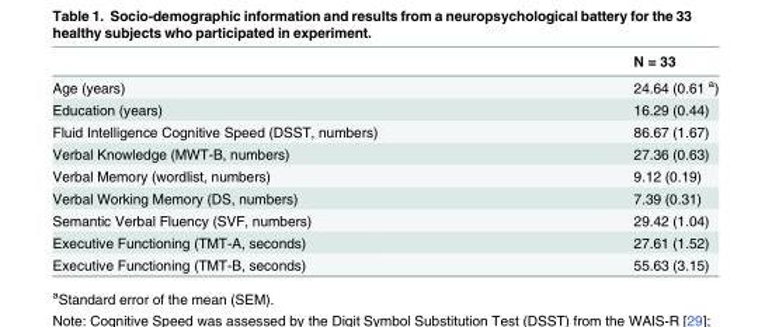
<table><thead><tr><td></td><td>N = 33</td></tr></thead><tbody><tr><td>Age (years)</td><td>24.64 (0.61 <sup>a</sup>)</td></tr><tr><td>Education (years)</td><td>16.29 (0.44)</td></tr><tr><td>Fluid Intelligence Cognitive Speed (DSST, numbers)</td><td>86.67 (1.67)</td></tr><tr><td>Verbal Knowledge (MWT-B, numbers)</td><td>27.36 (0.63)</td></tr><tr><td>Verbal Memory (wordlist, numbers)</td><td>9.12 (0.19)</td></tr><tr><td>Verbal Working Memory (DS, numbers)</td><td>7.39 (0.31)</td></tr><tr><td>Semantic Verbal Fluency (SVF, numbers)</td><td>29.42 (1.04)</td></tr><tr><td>Executive Functioning (TMT-A, seconds)</td><td>27.61 (1.52)</td></tr><tr><td>Executive Functioning (TMT-B, seconds)</td><td>55.63 (3.15)</td></tr></tbody></table>